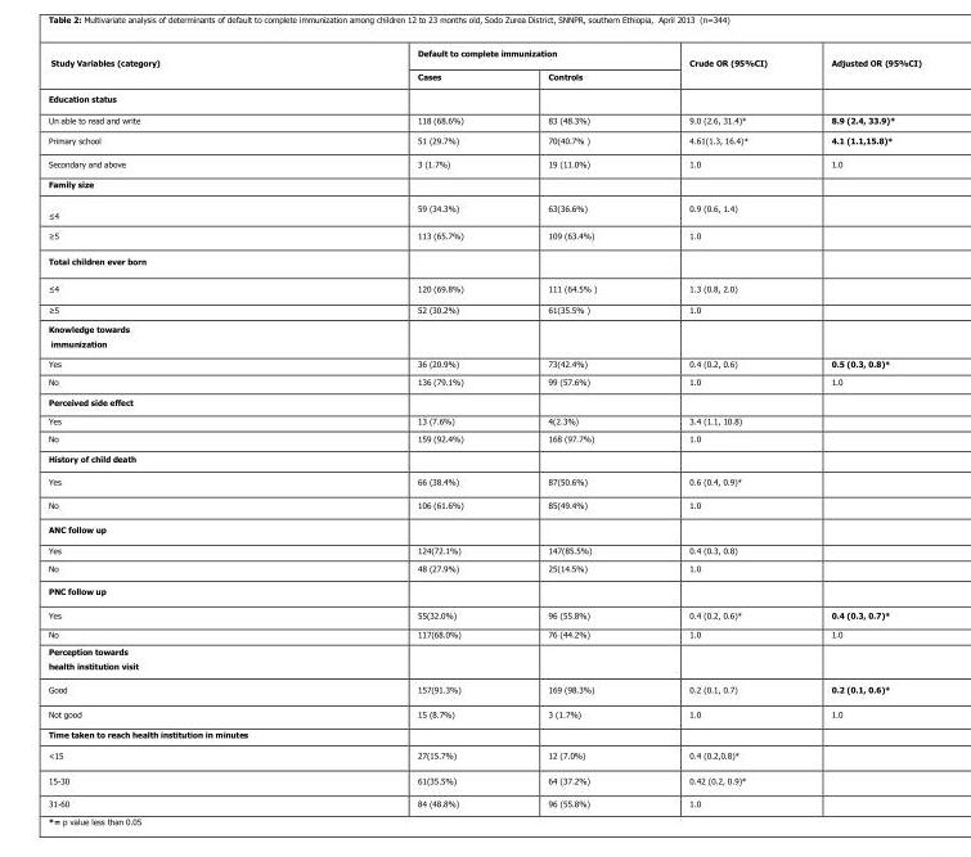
<table><thead><tr><td rowspan="2">Study Variables (category)</td><td colspan="2">Default to complete immunization</td><td rowspan="2">Crude OR (95%CI)</td><td rowspan="2">Adjusted OR (95%CI)</td></tr><tr><td>Cases</td><td>Controls</td></tr></thead><tbody><tr><td colspan="5">Education status</td></tr><tr><td>Un able to read and write</td><td>118 (68.6%)</td><td>83 (48.3%)</td><td>9.0 (2.6, 31.4)*</td><td>8.9 (2.4, 33.9)*</td></tr><tr><td>Primary school</td><td>51 (29.7%)</td><td>70(40.7% )</td><td>4.61(1.3, 16.4)*</td><td>4.1 (1.1,15.8)*</td></tr><tr><td>Secondary and above</td><td>3 (1.7%)</td><td>19 (11.0%)</td><td>1.0</td><td>1.0</td></tr><tr><td colspan="5">Family size</td></tr><tr><td>≤4</td><td>59 (34.3%)</td><td>63(36.6%)</td><td>0.9 (0.6, 1.4)</td><td></td></tr><tr><td>≥5</td><td>113 (65.7%)</td><td>109 (63.4%)</td><td>1.0</td><td></td></tr><tr><td colspan="5">Total children ever born</td></tr><tr><td>≤4</td><td>120 (69.8%)</td><td>111 (64.5% )</td><td>1.3 (0.8, 2.0)</td><td></td></tr><tr><td>≥5</td><td>52 (30.2%)</td><td>61(35.5% )</td><td>1.0</td><td></td></tr><tr><td colspan="5">Knowledge towards immunization</td></tr><tr><td>Yes</td><td>36 (20.9%)</td><td>73(42.4%)</td><td>0.4 (0.2, 0.6)</td><td>0.5 (0.3, 0.8)*</td></tr><tr><td>No</td><td>136 (79.1%)</td><td>99 (57.6%)</td><td>1.0</td><td>1.0</td></tr><tr><td colspan="5">Perceived side effect</td></tr><tr><td>Yes</td><td>13 (7.6%)</td><td>4(2.3%)</td><td>3.4 (1.1, 10.8)</td><td></td></tr><tr><td>No</td><td>159 (92.4%)</td><td>168 (97.7%)</td><td>1.0</td><td></td></tr><tr><td colspan="5">History of child death</td></tr><tr><td>Yes</td><td>66 (38.4%)</td><td>87(50.6%)</td><td>0.6 (0.4, 0.9)*</td><td></td></tr><tr><td>No</td><td>106 (61.6%)</td><td>85(49.4%)</td><td>1.0</td><td></td></tr><tr><td colspan="5">ANC follow up</td></tr><tr><td>Yes</td><td>124(72.1%)</td><td>147(85.5%)</td><td>0.4 (0.3, 0.8)</td><td></td></tr><tr><td>No</td><td>48 (27.9%)</td><td>25(14.5%)</td><td>1.0</td><td></td></tr><tr><td colspan="5">PNC follow up</td></tr><tr><td>Yes</td><td>55(32.0%)</td><td>96 (55.8%)</td><td>0.4 (0.2, 0.6)*</td><td>0.4 (0.3, 0.7)*</td></tr><tr><td>No</td><td>117(68.0%)</td><td>76 (44.2%)</td><td>1.0</td><td>1.0</td></tr><tr><td colspan="5">Perception towards health institution visit</td></tr><tr><td>Good</td><td>157(91.3%)</td><td>169 (98.3%)</td><td>0.2 (0.1, 0.7)</td><td>0.2 (0.1, 0.6)*</td></tr><tr><td>Not good</td><td>15 (8.7%)</td><td>3 (1.7%)</td><td>1.0</td><td>1.0</td></tr><tr><td colspan="5">Time taken to reach health institution in minutes</td></tr><tr><td>&lt;15</td><td>27(15.7%)</td><td>12 (7.0%)</td><td>0.4 (0.2,0.8)*</td><td></td></tr><tr><td>15-30</td><td>61(35.5%)</td><td>64 (37.2%)</td><td>0.42 (0.2, 0.9)*</td><td></td></tr><tr><td>31-60</td><td>84 (48.8%)</td><td>96 (55.8%)</td><td>1.0</td><td></td></tr></tbody></table>